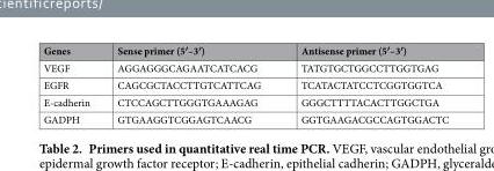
<table><thead><tr><td>Genes</td><td>Sense primer (5′–3′)</td><td>Antisense primer (5′–3′)</td></tr></thead><tbody><tr><td>VEGF</td><td>AGGAGGGCAGAATCATCACG</td><td>TATGTGCTGGCCTTGGTGAG</td></tr><tr><td>EGFR</td><td>CAGCGCTACCTTGTCATTCAG</td><td>TCATACTATCCTCGGTGGTCA</td></tr><tr><td>E-cadherin</td><td>CTCCAGCTTGGGTGAAAGAG</td><td>GGGCTTTTACACTTGGCTGA</td></tr><tr><td>GADPH</td><td>GTGAAGGTCGGAGTCAACG</td><td>GGTGAAGACGCCAGTGGACTC</td></tr></tbody></table>